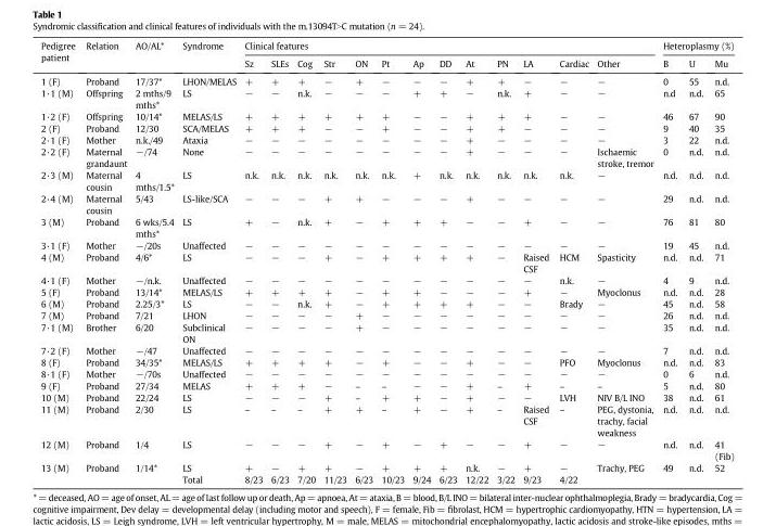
<table><thead><tr><td rowspan="2">Pedigree patient</td><td rowspan="2">Relation</td><td rowspan="2">AO/AL*</td><td rowspan="2">Syndrome</td><td colspan="13">Clinical features</td><td colspan="3">Heteroplasmy (%)</td></tr><tr><td>Sz</td><td>SLEs</td><td>Cog</td><td>Str</td><td>ON</td><td>Pt</td><td>Ap</td><td>DD</td><td>At</td><td>PN</td><td>LA</td><td>Cardiac</td><td>Other</td><td>B</td><td>U</td><td>Mu</td></tr></thead><tbody><tr><td>1 (F)</td><td>Proband</td><td>17/37*</td><td>LHON/MELAS</td><td>+</td><td>+</td><td>+</td><td>−</td><td>+</td><td>−</td><td>−</td><td>−</td><td>+</td><td>+</td><td>−</td><td>−</td><td>−</td><td>0</td><td>55</td><td>n.d.</td></tr><tr><td>1·1 (M)</td><td>Offspring</td><td>2 mths/9 mths*</td><td>LS</td><td>−</td><td>−</td><td>n.k.</td><td>−</td><td>−</td><td>−</td><td>+</td><td>+</td><td>−</td><td>n.k.</td><td>+</td><td>−</td><td>−</td><td>n.d</td><td>n.d.</td><td>65</td></tr><tr><td>1·2 (F)</td><td>Offspring</td><td>10/14*</td><td>MELAS/LS</td><td>+</td><td>+</td><td>+</td><td>+</td><td>+</td><td>+</td><td>−</td><td>−</td><td>+</td><td>+</td><td>+</td><td>−</td><td>−</td><td>46</td><td>67</td><td>90</td></tr><tr><td>2 (F)</td><td>Proband</td><td>12/30</td><td>SCA/MELAS</td><td>+</td><td>+</td><td>+</td><td>−</td><td>−</td><td>+</td><td>−</td><td>−</td><td>+</td><td>+</td><td>−</td><td>−</td><td>−</td><td>9</td><td>40</td><td>35</td></tr><tr><td>2·1 (F)</td><td>Mother</td><td>n.k./49</td><td>Ataxia</td><td>−</td><td>−</td><td>−</td><td>−</td><td>−</td><td>−</td><td>−</td><td>−</td><td>+</td><td>−</td><td>−</td><td>−</td><td>−</td><td>3</td><td>22</td><td>n.d.</td></tr><tr><td>2·2 (F)</td><td>Maternal grandaunt</td><td>−/74</td><td>None</td><td>−</td><td>−</td><td>−</td><td>−</td><td>−</td><td>−</td><td>−</td><td>−</td><td>+</td><td>−</td><td>−</td><td>−</td><td>Ischaemic stroke, tremor</td><td>0</td><td>n.d.</td><td>n.d.</td></tr><tr><td>2·3 (M)</td><td>Maternal cousin</td><td>4 mths/1.5*</td><td>LS</td><td>n.k.</td><td>n.k.</td><td>n.k.</td><td>n.k.</td><td>n.k.</td><td>n.k.</td><td>+</td><td>n.k.</td><td>n.k.</td><td>n.k.</td><td>n.k.</td><td>n.k.</td><td>−</td><td>n.d.</td><td>n.d.</td><td>n.d.</td></tr><tr><td>2·4 (M)</td><td>Maternal cousin</td><td>5/43</td><td>LS-like/SCA</td><td>−</td><td>−</td><td>−</td><td>+</td><td>+</td><td>−</td><td>−</td><td>−</td><td>+</td><td>−</td><td>−</td><td>−</td><td>−</td><td>29</td><td>n.d.</td><td>n.d.</td></tr><tr><td>3 (M)</td><td>Proband</td><td>6 wks/5.4 mths*</td><td>LS</td><td>+</td><td>−</td><td>n.k.</td><td>+</td><td>−</td><td>+</td><td>+</td><td>+</td><td>−</td><td>−</td><td>+</td><td>−</td><td>−</td><td>76</td><td>81</td><td>80</td></tr><tr><td>3·1 (F)</td><td>Mother</td><td>−/20s</td><td>Unaffected</td><td>−</td><td>−</td><td>−</td><td>−</td><td>−</td><td>−</td><td>−</td><td>−</td><td>−</td><td>−</td><td>−</td><td>−</td><td>−</td><td>19</td><td>45</td><td>n.d.</td></tr><tr><td>4 (M)</td><td>Proband</td><td>4/6*</td><td>LS</td><td>−</td><td>−</td><td>−</td><td>+</td><td>−</td><td>+</td><td>+</td><td>+</td><td>+</td><td>−</td><td>Raised CSF</td><td>HCM</td><td>Spasticity</td><td>n.d.</td><td>n.d.</td><td>71</td></tr><tr><td>4·1 (F)</td><td>Mother</td><td>−/n.k.</td><td>Unaffected</td><td>−</td><td>−</td><td>−</td><td>−</td><td>−</td><td>−</td><td>−</td><td>−</td><td>−</td><td>−</td><td>−</td><td>n.k.</td><td>−</td><td>4</td><td>9</td><td>n.d.</td></tr><tr><td>5 (F)</td><td>Proband</td><td>13/14*</td><td>MELAS/LS</td><td>+</td><td>+</td><td>+</td><td>+</td><td>−</td><td>+</td><td>+</td><td>−</td><td>−</td><td>−</td><td>+</td><td>−</td><td>Myoclonus</td><td>n.d.</td><td>n.d.</td><td>28</td></tr><tr><td>6 (M)</td><td>Proband</td><td>2.25/3*</td><td>LS</td><td>−</td><td>−</td><td>n.k.</td><td>+</td><td>−</td><td>+</td><td>+</td><td>+</td><td>+</td><td>−</td><td>−</td><td>Brady</td><td>−</td><td>45</td><td>n.d.</td><td>58</td></tr><tr><td>7 (M)</td><td>Proband</td><td>7/21</td><td>LHON</td><td>−</td><td>−</td><td>−</td><td>−</td><td>+</td><td>−</td><td>−</td><td>−</td><td>−</td><td>−</td><td>−</td><td>−</td><td>−</td><td>26</td><td>n.d.</td><td>n.d.</td></tr><tr><td>7·1 (M)</td><td>Brother</td><td>6/20</td><td>Subclinical ON</td><td>−</td><td>−</td><td>−</td><td>−</td><td>+</td><td>−</td><td>−</td><td>−</td><td>−</td><td>−</td><td>−</td><td>−</td><td>−</td><td>35</td><td>n.d.</td><td>n.d.</td></tr><tr><td>7·2 (F)</td><td>Mother</td><td>−/47</td><td>Unaffected</td><td>−</td><td>−</td><td>−</td><td>−</td><td>−</td><td>−</td><td>−</td><td>−</td><td>−</td><td>−</td><td>−</td><td>−</td><td>−</td><td>7</td><td>n.d.</td><td>n.d.</td></tr><tr><td>8 (F)</td><td>Proband</td><td>34/35*</td><td>MELAS/LS</td><td>+</td><td>+</td><td>+</td><td>+</td><td>−</td><td>+</td><td>−</td><td>−</td><td>+</td><td>−</td><td>−</td><td>PFO</td><td>Myoclonus</td><td>n.d.</td><td>n.d.</td><td>83</td></tr><tr><td>8·1 (F)</td><td>Mother</td><td>−/70s</td><td>Unaffected</td><td>−</td><td>−</td><td>−</td><td>−</td><td>−</td><td>−</td><td>−</td><td>−</td><td>−</td><td>−</td><td>−</td><td>−</td><td>−</td><td>0</td><td>6</td><td>n.d.</td></tr><tr><td>9 (F)</td><td>Proband</td><td>27/34</td><td>MELAS</td><td>+</td><td>+</td><td>+</td><td>−</td><td>–</td><td>–</td><td>−</td><td>−</td><td>+</td><td>–</td><td>+</td><td>–</td><td>–</td><td>5</td><td>n.d.</td><td>80</td></tr><tr><td>10 (M)</td><td>Proband</td><td>22/24</td><td>LS</td><td>−</td><td>−</td><td>−</td><td>+</td><td>–</td><td>+</td><td>+</td><td>−</td><td>+</td><td>−</td><td>−</td><td>LVH</td><td>NIV B/L INO</td><td>38</td><td>n.d.</td><td>61</td></tr><tr><td>11 (M)</td><td>Proband</td><td>2/30</td><td>LS</td><td>–</td><td>–</td><td>–</td><td>+</td><td>+</td><td>–</td><td>+</td><td>−</td><td>+</td><td>–</td><td>Raised CSF</td><td>–</td><td>PEG, dystonia, trachy, facial weakness</td><td>n.d.</td><td>n.d.</td><td>n.d.</td></tr><tr><td>12 (M)</td><td>Proband</td><td>1/4</td><td>LS</td><td>−</td><td>−</td><td>−</td><td>+</td><td>−</td><td>+</td><td>−</td><td>+</td><td>−</td><td>−</td><td>+</td><td>−</td><td>−</td><td>n.d.</td><td>n.d.</td><td>41 (Fib)</td></tr><tr><td rowspan="2">13 (M)</td><td>Proband</td><td>1/14*</td><td>LS</td><td>+</td><td>−</td><td>+</td><td>+</td><td>−</td><td>+</td><td>+</td><td>+</td><td>n.k.</td><td>−</td><td>+</td><td>−</td><td>Trachy, PEG</td><td>49</td><td>n.d.</td><td>52</td></tr><tr><td></td><td></td><td>Total</td><td>8/23</td><td>6/23</td><td>7/20</td><td>11/23</td><td>6/23</td><td>10/23</td><td>9/24</td><td>6/23</td><td>12/22</td><td>3/22</td><td>9/23</td><td>4/22</td><td colspan="4"></td></tr></tbody></table>